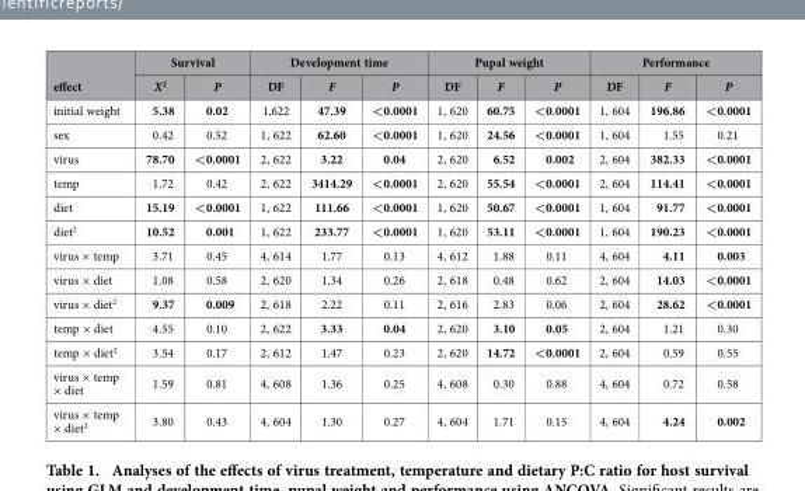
<table><thead><tr><td rowspan="2">effect</td><td colspan="2">Survival</td><td colspan="3">Development time</td><td colspan="3">Pupal weight</td><td colspan="3">Performance</td></tr><tr><td>X<sup>2</sup></td><td>P</td><td>DF</td><td>F</td><td>P</td><td>DF</td><td>F</td><td>P</td><td>DF</td><td>F</td><td>P</td></tr></thead><tbody><tr><td>initial weight</td><td>5.38</td><td>0.02</td><td>1,622</td><td>47.39</td><td>&lt;0.0001</td><td>1, 620</td><td>60.75</td><td>&lt;0.0001</td><td>1, 604</td><td>196.86</td><td>&lt;0.0001</td></tr><tr><td>sex</td><td>0.42</td><td>0.52</td><td>1, 622</td><td>62.60</td><td>&lt;0.0001</td><td>1, 620</td><td>24.56</td><td>&lt;0.0001</td><td>1, 604</td><td>1.55</td><td>0.21</td></tr><tr><td>virus</td><td>78.70</td><td>&lt;0.0001</td><td>2, 622</td><td>3.22</td><td>0.04</td><td>2, 620</td><td>6.52</td><td>0.002</td><td>2, 604</td><td>382.33</td><td>&lt;0.0001</td></tr><tr><td>temp</td><td>1.72</td><td>0.42</td><td>2, 622</td><td>3414.29</td><td>&lt;0.0001</td><td>2, 620</td><td>55.54</td><td>&lt;0.0001</td><td>2, 604</td><td>114.41</td><td>&lt;0.0001</td></tr><tr><td>diet</td><td>15.19</td><td>&lt;0.0001</td><td>1, 622</td><td>111.66</td><td>&lt;0.0001</td><td>1, 620</td><td>50.67</td><td>&lt;0.0001</td><td>1, 604</td><td>91.77</td><td>&lt;0.0001</td></tr><tr><td>diet<sup>2</sup></td><td>10.52</td><td>0.001</td><td>1, 622</td><td>233.77</td><td>&lt;0.0001</td><td>1, 620</td><td>53.11</td><td>&lt;0.0001</td><td>1, 604</td><td>190.23</td><td>&lt;0.0001</td></tr><tr><td>virus × temp</td><td>3.71</td><td>0.45</td><td>4, 614</td><td>1.77</td><td>0.13</td><td>4, 612</td><td>1.88</td><td>0.11</td><td>4, 604</td><td>4.11</td><td>0.003</td></tr><tr><td>virus × diet</td><td>1.08</td><td>0.58</td><td>2, 620</td><td>1.34</td><td>0.26</td><td>2, 618</td><td>0.48</td><td>0.62</td><td>2, 604</td><td>14.03</td><td>&lt;0.0001</td></tr><tr><td>virus × diet<sup>2</sup></td><td>9.37</td><td>0.009</td><td>2, 618</td><td>2.22</td><td>0.11</td><td>2, 616</td><td>2.83</td><td>0.06</td><td>2, 604</td><td>28.62</td><td>&lt;0.0001</td></tr><tr><td>temp × diet</td><td>4.55</td><td>0.10</td><td>2, 622</td><td>3.33</td><td>0.04</td><td>2, 620</td><td>3.10</td><td>0.05</td><td>2, 604</td><td>1.21</td><td>0.30</td></tr><tr><td>temp × diet<sup>2</sup></td><td>3.54</td><td>0.17</td><td>2, 612</td><td>1.47</td><td>0.23</td><td>2, 620</td><td>14.72</td><td>&lt;0.0001</td><td>2, 604</td><td>0.59</td><td>0.55</td></tr><tr><td>virus × temp × diet</td><td>1.59</td><td>0.81</td><td>4, 608</td><td>1.36</td><td>0.25</td><td>4, 608</td><td>0.30</td><td>0.88</td><td>4, 604</td><td>0.72</td><td>0.58</td></tr><tr><td>virus × temp × diet<sup>2</sup></td><td>3.80</td><td>0.43</td><td>4, 604</td><td>1.30</td><td>0.27</td><td>4, 604</td><td>1.71</td><td>0.15</td><td>4, 604</td><td>4.24</td><td>0.002</td></tr></tbody></table>